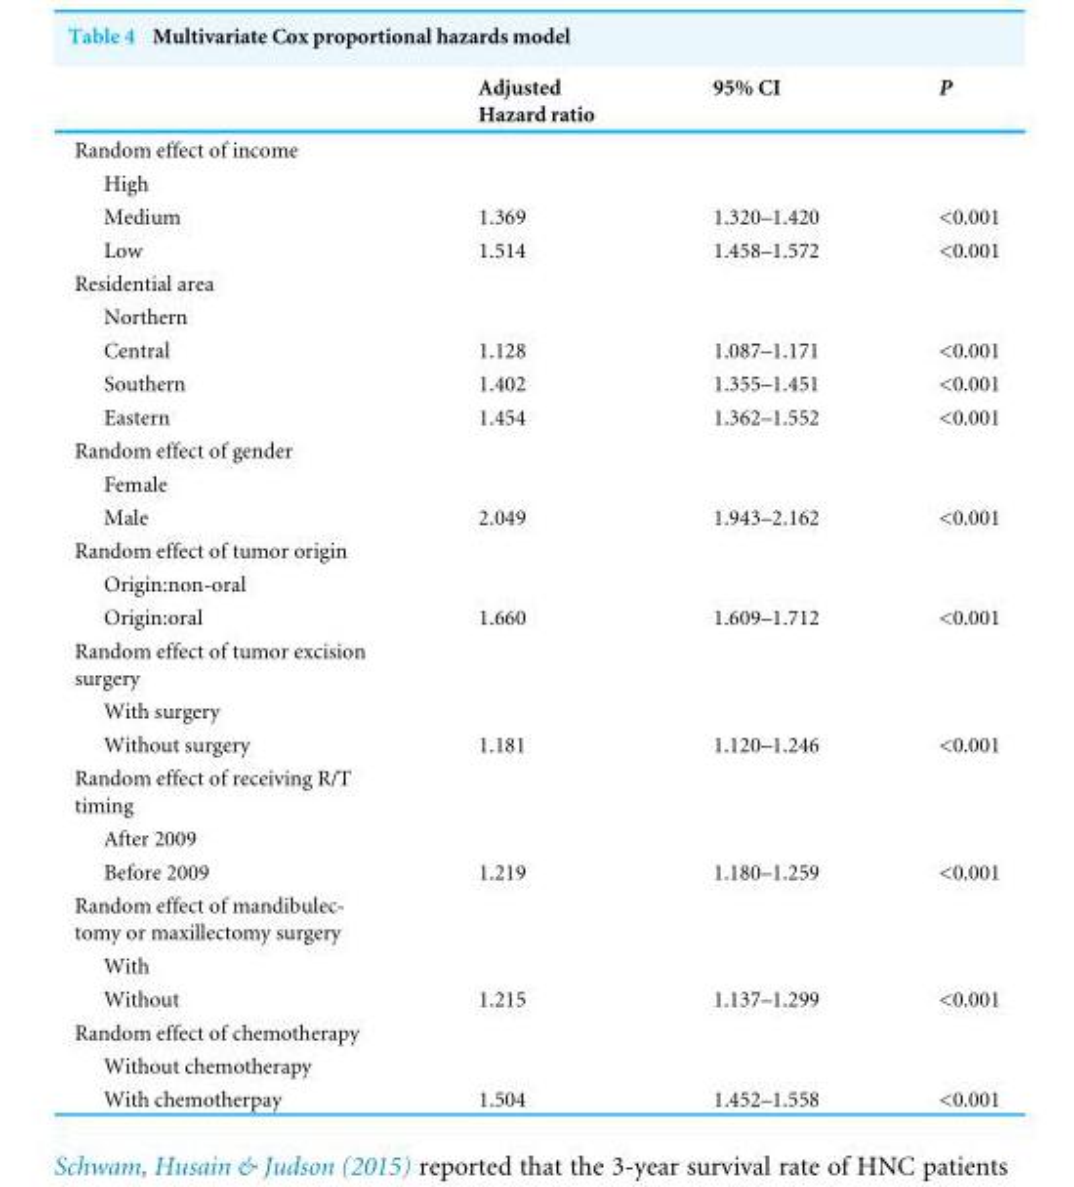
<table><thead><tr><td></td><td>Adjusted Hazard ratio</td><td>95% CI</td><td>P</td></tr></thead><tbody><tr><td colspan="4">Random effect of income</td></tr><tr><td colspan="4">High</td></tr><tr><td>Medium</td><td>1.369</td><td>1.320–1.420</td><td>&lt;0.001</td></tr><tr><td>Low</td><td>1.514</td><td>1.458–1.572</td><td>&lt;0.001</td></tr><tr><td colspan="4">Residential area</td></tr><tr><td colspan="4">Northern</td></tr><tr><td>Central</td><td>1.128</td><td>1.087–1.171</td><td>&lt;0.001</td></tr><tr><td>Southern</td><td>1.402</td><td>1.355–1.451</td><td>&lt;0.001</td></tr><tr><td>Eastern</td><td>1.454</td><td>1.362–1.552</td><td>&lt;0.001</td></tr><tr><td colspan="4">Random effect of gender</td></tr><tr><td colspan="4">Female</td></tr><tr><td>Male</td><td>2.049</td><td>1.943–2.162</td><td>&lt;0.001</td></tr><tr><td colspan="4">Random effect of tumor origin</td></tr><tr><td colspan="4">Origin:non-oral</td></tr><tr><td>Origin:oral</td><td>1.660</td><td>1.609–1.712</td><td>&lt;0.001</td></tr><tr><td colspan="4">Random effect of tumor excision surgery</td></tr><tr><td colspan="4">With surgery</td></tr><tr><td>Without surgery</td><td>1.181</td><td>1.120–1.246</td><td>&lt;0.001</td></tr><tr><td colspan="4">Random effect of receiving R/T timing</td></tr><tr><td colspan="4">After 2009</td></tr><tr><td>Before 2009</td><td>1.219</td><td>1.180–1.259</td><td>&lt;0.001</td></tr><tr><td colspan="4">Random effect of mandibulec- tomy or maxillectomy surgery</td></tr><tr><td colspan="4">With</td></tr><tr><td>Without</td><td>1.215</td><td>1.137–1.299</td><td>&lt;0.001</td></tr><tr><td colspan="4">Random effect of chemotherapy</td></tr><tr><td colspan="4">Without chemotherapy</td></tr><tr><td>With chemotherpay</td><td>1.504</td><td>1.452–1.558</td><td>&lt;0.001</td></tr></tbody></table>